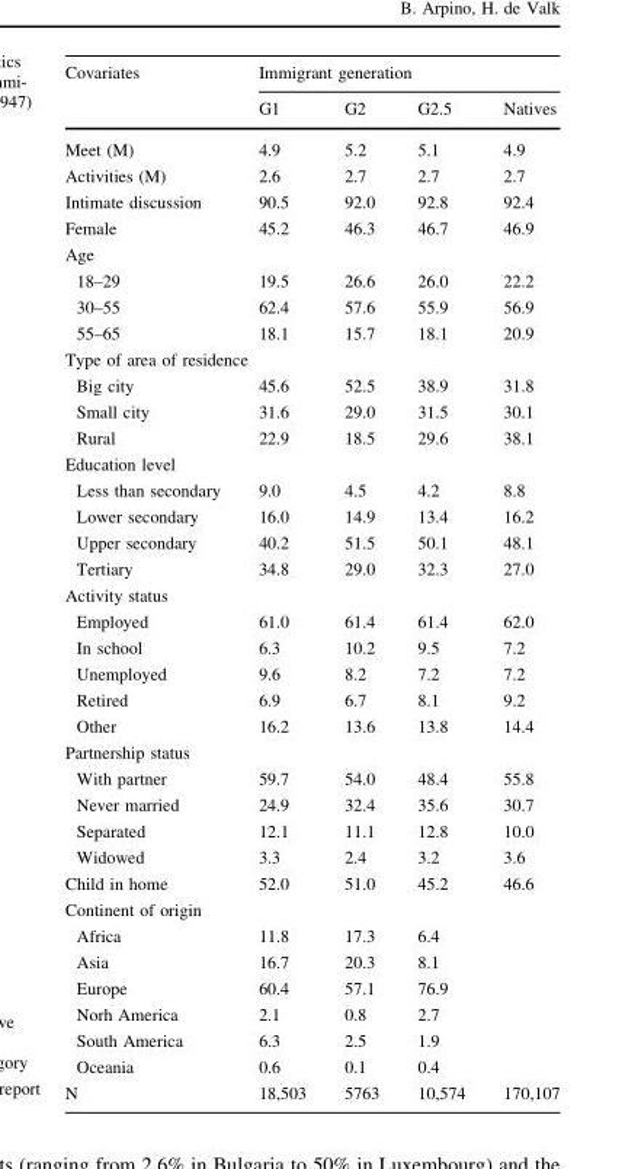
<table><thead><tr><td rowspan="2">Covariates</td><td colspan="4">Immigrant generation</td></tr><tr><td>G1</td><td>G2</td><td>G2.5</td><td>Natives</td></tr></thead><tbody><tr><td>Meet (M)</td><td>4.9</td><td>5.2</td><td>5.1</td><td>4.9</td></tr><tr><td>Activities (M)</td><td>2.6</td><td>2.7</td><td>2.7</td><td>2.7</td></tr><tr><td>Intimate discussion</td><td>90.5</td><td>92.0</td><td>92.8</td><td>92.4</td></tr><tr><td>Female</td><td>45.2</td><td>46.3</td><td>46.7</td><td>46.9</td></tr><tr><td colspan="5">Age</td></tr><tr><td>18–29</td><td>19.5</td><td>26.6</td><td>26.0</td><td>22.2</td></tr><tr><td>30–55</td><td>62.4</td><td>57.6</td><td>55.9</td><td>56.9</td></tr><tr><td>55–65</td><td>18.1</td><td>15.7</td><td>18.1</td><td>20.9</td></tr><tr><td colspan="5">Type of area of residence</td></tr><tr><td>Big city</td><td>45.6</td><td>52.5</td><td>38.9</td><td>31.8</td></tr><tr><td>Small city</td><td>31.6</td><td>29.0</td><td>31.5</td><td>30.1</td></tr><tr><td>Rural</td><td>22.9</td><td>18.5</td><td>29.6</td><td>38.1</td></tr><tr><td colspan="5">Education level</td></tr><tr><td>Less than secondary</td><td>9.0</td><td>4.5</td><td>4.2</td><td>8.8</td></tr><tr><td>Lower secondary</td><td>16.0</td><td>14.9</td><td>13.4</td><td>16.2</td></tr><tr><td>Upper secondary</td><td>40.2</td><td>51.5</td><td>50.1</td><td>48.1</td></tr><tr><td>Tertiary</td><td>34.8</td><td>29.0</td><td>32.3</td><td>27.0</td></tr><tr><td colspan="5">Activity status</td></tr><tr><td>Employed</td><td>61.0</td><td>61.4</td><td>61.4</td><td>62.0</td></tr><tr><td>In school</td><td>6.3</td><td>10.2</td><td>9.5</td><td>7.2</td></tr><tr><td>Unemployed</td><td>9.6</td><td>8.2</td><td>7.2</td><td>7.2</td></tr><tr><td>Retired</td><td>6.9</td><td>6.7</td><td>8.1</td><td>9.2</td></tr><tr><td>Other</td><td>16.2</td><td>13.6</td><td>13.8</td><td>14.4</td></tr><tr><td colspan="5">Partnership status</td></tr><tr><td>With partner</td><td>59.7</td><td>54.0</td><td>48.4</td><td>55.8</td></tr><tr><td>Never married</td><td>24.9</td><td>32.4</td><td>35.6</td><td>30.7</td></tr><tr><td>Separated</td><td>12.1</td><td>11.1</td><td>12.8</td><td>10.0</td></tr><tr><td>Widowed</td><td>3.3</td><td>2.4</td><td>3.2</td><td>3.6</td></tr><tr><td>Child in home</td><td>52.0</td><td>51.0</td><td>45.2</td><td>46.6</td></tr><tr><td colspan="5">Continent of origin</td></tr><tr><td>Africa</td><td>11.8</td><td>17.3</td><td>6.4</td><td></td></tr><tr><td>Asia</td><td>16.7</td><td>20.3</td><td>8.1</td><td></td></tr><tr><td>Europe</td><td>60.4</td><td>57.1</td><td>76.9</td><td></td></tr><tr><td>Norh America</td><td>2.1</td><td>0.8</td><td>2.7</td><td></td></tr><tr><td>South America</td><td>6.3</td><td>2.5</td><td>1.9</td><td></td></tr><tr><td>Oceania</td><td>0.6</td><td>0.1</td><td>0.4</td><td></td></tr><tr><td>N</td><td>18,503</td><td>5763</td><td>10,574</td><td>170,107</td></tr></tbody></table>